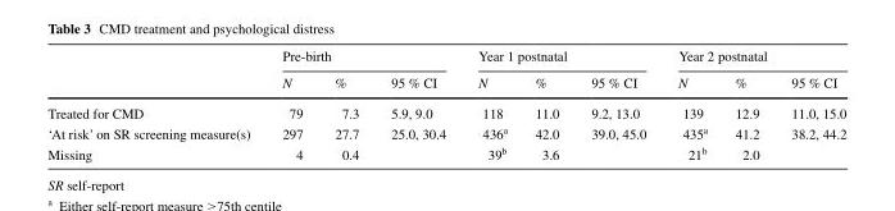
<table><thead><tr><td rowspan="2"></td><td colspan="3">Pre-birth</td><td colspan="3">Year 1 postnatal</td><td colspan="3">Year 2 postnatal</td></tr><tr><td>N</td><td>%</td><td>95 % CI</td><td>N</td><td>%</td><td>95 % CI</td><td>N</td><td>%</td><td>95 % CI</td></tr></thead><tbody><tr><td>Treated for CMD</td><td>79</td><td>7.3</td><td>5.9, 9.0</td><td>118</td><td>11.0</td><td>9.2, 13.0</td><td>139</td><td>12.9</td><td>11.0, 15.0</td></tr><tr><td>‘At risk’ on SR screening measure(s)</td><td>297</td><td>27.7</td><td>25.0, 30.4</td><td>436<sup>a</sup></td><td>42.0</td><td>39.0, 45.0</td><td>435<sup>a</sup></td><td>41.2</td><td>38.2, 44.2</td></tr><tr><td>Missing</td><td>4</td><td>0.4</td><td></td><td>39<sup>b</sup></td><td>3.6</td><td></td><td>21<sup>b</sup></td><td>2.0</td><td></td></tr></tbody></table>